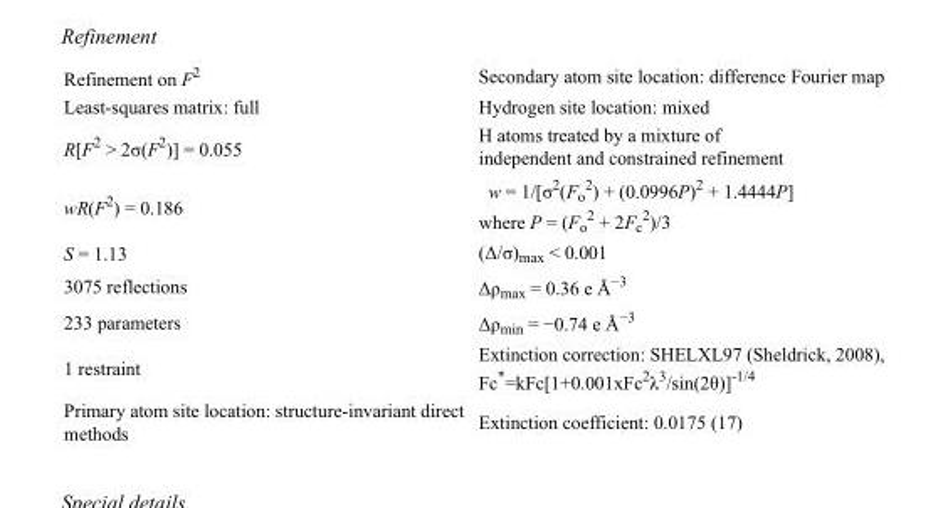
<table><tbody><tr><td>Refinement on F<sup>2</sup></td><td>Secondary atom site location: difference Fourier map</td></tr><tr><td>Least-squares matrix: full</td><td>Hydrogen site location: mixed</td></tr><tr><td>R[F<sup>2</sup> &gt; 2σ(F<sup>2</sup>)] = 0.055</td><td>H atoms treated by a mixture of independent and constrained refinement</td></tr><tr><td>wR(F<sup>2</sup>) = 0.186</td><td>w = 1/[σ<sup>2</sup>(F<sub>o</sub> <sup>2</sup>) + (0.0996P)<sup>2</sup> + 1.4444P] where P = (F<sub>o</sub> <sup>2</sup> + 2F<sub>c</sub> <sup>2</sup>)/3</td></tr><tr><td>S = 1.13</td><td>(Δ/σ)<sub>max</sub> &lt; 0.001</td></tr><tr><td>3075 reflections</td><td>Δρ<sub>max</sub> = 0.36 e Å<sup>−3</sup></td></tr><tr><td>233 parameters</td><td>Δρ<sub>min</sub> = −0.74 e Å<sup>−3</sup></td></tr><tr><td>1 restraint</td><td>Extinction correction: SHELXL97 (Sheldrick, 2008), Fc*=kFc[1+0.001xFc<sup>2</sup>λ<sup>3</sup>/sin(2θ)]<sup>-1/4</sup></td></tr><tr><td>Primary atom site location: structure-invariant direct methods</td><td>Extinction coefficient: 0.0175 (17)</td></tr></tbody></table>